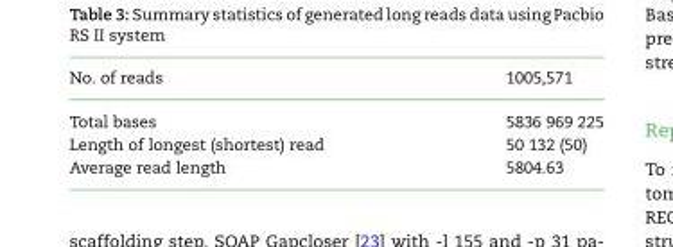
<table><thead><tr><td>No. of reads</td><td>1005,571</td></tr></thead><tbody><tr><td>Total bases</td><td>5836 969 225</td></tr><tr><td>Length of longest (shortest) read</td><td>50 132 (50)</td></tr><tr><td>Average read length</td><td>5804.63</td></tr></tbody></table>